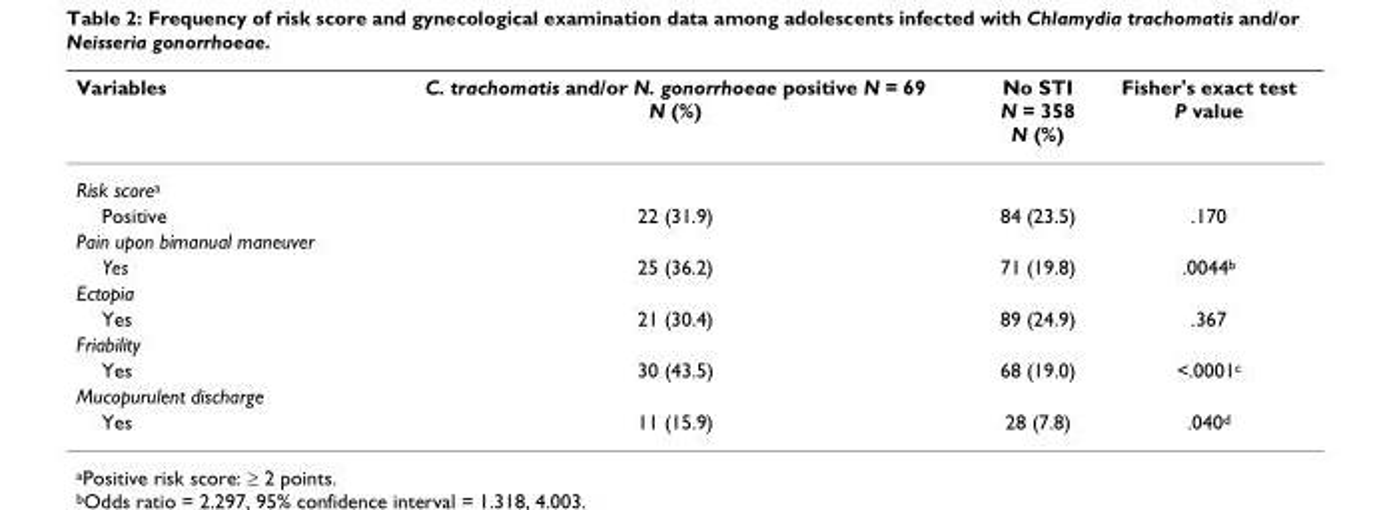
<table><thead><tr><td>Variables</td><td>C. trachomatis and/or N. gonorrhoeae positive N = 69 N (%)</td><td>No STI N = 358 N (%)</td><td>Fisher&#x27;s exact test P value</td></tr></thead><tbody><tr><td colspan="4">Risk score<sup>a</sup></td></tr><tr><td>Positive</td><td>22 (31.9)</td><td>84 (23.5)</td><td>.170</td></tr><tr><td colspan="4">Pain upon bimanual maneuver</td></tr><tr><td>Yes</td><td>25 (36.2)</td><td>71 (19.8)</td><td>.0044<sup>b</sup></td></tr><tr><td colspan="4">Ectopia</td></tr><tr><td>Yes</td><td>21 (30.4)</td><td>89 (24.9)</td><td>.367</td></tr><tr><td colspan="4">Friability</td></tr><tr><td>Yes</td><td>30 (43.5)</td><td>68 (19.0)</td><td>&lt;.0001<sup>c</sup></td></tr><tr><td colspan="4">Mucopurulent discharge</td></tr><tr><td>Yes</td><td>11 (15.9)</td><td>28 (7.8)</td><td>.040<sup>d</sup></td></tr></tbody></table>